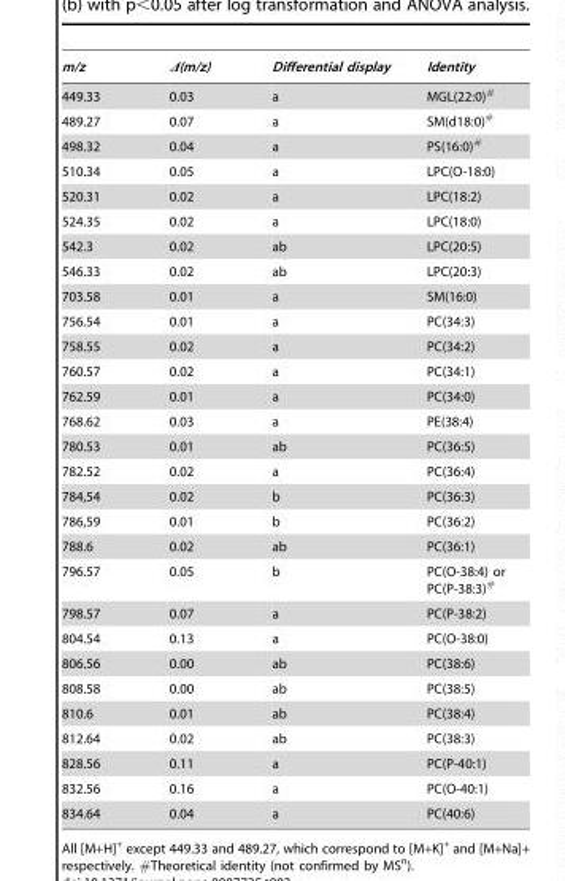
<table><thead><tr><td>m/z</td><td>Δ(m/z)</td><td>Differential display</td><td>Identity</td></tr></thead><tbody><tr><td>449.33</td><td>0.03</td><td>a</td><td>MGL(22:0)#</td></tr><tr><td>489.27</td><td>0.07</td><td>a</td><td>SM(d18:0)#</td></tr><tr><td>498.32</td><td>0.04</td><td>a</td><td>PS(16:0)#</td></tr><tr><td>510.34</td><td>0.05</td><td>a</td><td>LPC(O-18:0)</td></tr><tr><td>520.31</td><td>0.02</td><td>a</td><td>LPC(18:2)</td></tr><tr><td>524.35</td><td>0.02</td><td>a</td><td>LPC(18:0)</td></tr><tr><td>542.3</td><td>0.02</td><td>ab</td><td>LPC(20:5)</td></tr><tr><td>546.33</td><td>0.02</td><td>ab</td><td>LPC(20:3)</td></tr><tr><td>703.58</td><td>0.01</td><td>a</td><td>SM(16:0)</td></tr><tr><td>756.54</td><td>0.01</td><td>a</td><td>PC(34:3)</td></tr><tr><td>758.55</td><td>0.02</td><td>a</td><td>PC(34:2)</td></tr><tr><td>760.57</td><td>0.02</td><td>a</td><td>PC(34:1)</td></tr><tr><td>762.59</td><td>0.01</td><td>a</td><td>PC(34:0)</td></tr><tr><td>768.62</td><td>0.03</td><td>a</td><td>PE(38:4)</td></tr><tr><td>780.53</td><td>0.01</td><td>ab</td><td>PC(36:5)</td></tr><tr><td>782.52</td><td>0.02</td><td>a</td><td>PC(36:4)</td></tr><tr><td>784,54</td><td>0.02</td><td>b</td><td>PC(36:3)</td></tr><tr><td>786,59</td><td>0.01</td><td>b</td><td>PC(36:2)</td></tr><tr><td>788.6</td><td>0.02</td><td>ab</td><td>PC(36:1)</td></tr><tr><td>796.57</td><td>0.05</td><td>b</td><td>PC(O-38:4) or PC(P-38:3)#</td></tr><tr><td>798.57</td><td>0.07</td><td>a</td><td>PC(P-38:2)</td></tr><tr><td>804.54</td><td>0.13</td><td>a</td><td>PC(O-38:0)</td></tr><tr><td>806.56</td><td>0.00</td><td>ab</td><td>PC(38:6)</td></tr><tr><td>808.58</td><td>0.00</td><td>ab</td><td>PC(38:5)</td></tr><tr><td>810.6</td><td>0.01</td><td>ab</td><td>PC(38:4)</td></tr><tr><td>812.64</td><td>0.02</td><td>ab</td><td>PC(38:3)</td></tr><tr><td>828.56</td><td>0.11</td><td>a</td><td>PC(P-40:1)</td></tr><tr><td>832.56</td><td>0.16</td><td>a</td><td>PC(O-40:1)</td></tr><tr><td>834.64</td><td>0.04</td><td>a</td><td>PC(40:6)</td></tr></tbody></table>